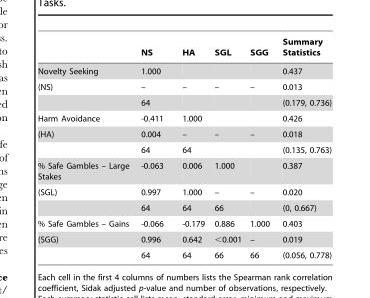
<table><thead><tr><td></td><td>NS</td><td>HA</td><td>SGL</td><td>SGG</td><td>Summary Statistics</td></tr></thead><tbody><tr><td>Novelty Seeking</td><td>1.000</td><td></td><td></td><td></td><td>0.437</td></tr><tr><td rowspan="2">(NS)</td><td>–</td><td>–</td><td>–</td><td>–</td><td>0.013</td></tr><tr><td>64</td><td></td><td></td><td></td><td>(0.179, 0.736)</td></tr><tr><td>Harm Avoidance</td><td>-0.411</td><td>1.000</td><td></td><td></td><td>0.426</td></tr><tr><td rowspan="2">(HA)</td><td>0.004</td><td>–</td><td>–</td><td>–</td><td>0.018</td></tr><tr><td>64</td><td>64</td><td></td><td></td><td>(0.135, 0.763)</td></tr><tr><td>% Safe Gambles – Large Stakes</td><td>-0.063</td><td>0.006</td><td>1.000</td><td></td><td>0.387</td></tr><tr><td rowspan="2">(SGL)</td><td>0.997</td><td>1.000</td><td>–</td><td>–</td><td>0.020</td></tr><tr><td>64</td><td>64</td><td>66</td><td></td><td>(0, 0.667)</td></tr><tr><td>% Safe Gambles – Gains</td><td>-0.066</td><td>-0.179</td><td>0.886</td><td>1.000</td><td>0.403</td></tr><tr><td rowspan="2">(SGG)</td><td>0.996</td><td>0.642</td><td>&lt;0.001</td><td>–</td><td>0.019</td></tr><tr><td>64</td><td>64</td><td>66</td><td>66</td><td>(0.056, 0.778)</td></tr></tbody></table>